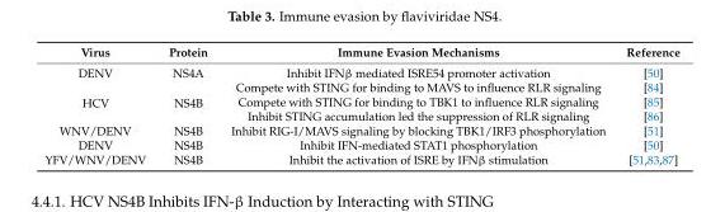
<table><thead><tr><td>Virus</td><td>Protein</td><td>Immune Evasion Mechanisms</td><td>Reference</td></tr></thead><tbody><tr><td>DENV</td><td>NS4A</td><td>Inhibit IFNβ mediated ISRE54 promoter activation</td><td>[50]</td></tr><tr><td rowspan="3">HCV</td><td rowspan="3">NS4B</td><td>Compete with STING for binding to MAVS to influence RLR signaling</td><td>[84]</td></tr><tr><td>Compete with STING for binding to TBK1 to influence RLR signaling</td><td>[85]</td></tr><tr><td>Inhibit STING accumulation led the suppression of RLR signaling</td><td>[86]</td></tr><tr><td>WNV/DENV</td><td>NS4B</td><td>Inhibit RIG-I/MAVS signaling by blocking TBK1/IRF3 phosphorylation</td><td>[51]</td></tr><tr><td>DENV</td><td>NS4B</td><td>Inhibit IFN-mediated STAT1 phosphorylation</td><td>[50]</td></tr><tr><td>YFV/WNV/DENV</td><td>NS4B</td><td>Inhibit the activation of ISRE by IFNβ stimulation</td><td>[51,83,87]</td></tr></tbody></table>